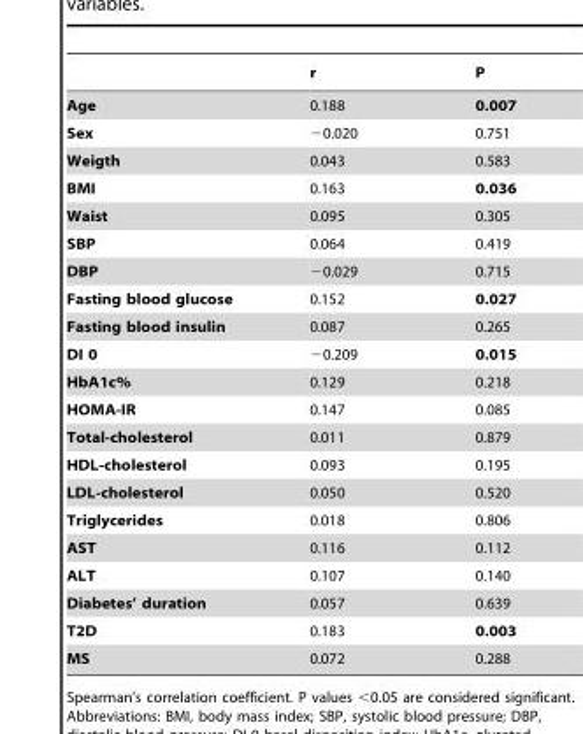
<table><thead><tr><td></td><td>r</td><td>P</td></tr></thead><tbody><tr><td>Age</td><td>0.188</td><td>0.007</td></tr><tr><td>Sex</td><td>−0.020</td><td>0.751</td></tr><tr><td>Weigth</td><td>0.043</td><td>0.583</td></tr><tr><td>BMI</td><td>0.163</td><td>0.036</td></tr><tr><td>Waist</td><td>0.095</td><td>0.305</td></tr><tr><td>SBP</td><td>0.064</td><td>0.419</td></tr><tr><td>DBP</td><td>−0.029</td><td>0.715</td></tr><tr><td>Fasting blood glucose</td><td>0.152</td><td>0.027</td></tr><tr><td>Fasting blood insulin</td><td>0.087</td><td>0.265</td></tr><tr><td>DI 0</td><td>−0.209</td><td>0.015</td></tr><tr><td>HbA1c%</td><td>0.129</td><td>0.218</td></tr><tr><td>HOMA-IR</td><td>0.147</td><td>0.085</td></tr><tr><td>Total-cholesterol</td><td>0.011</td><td>0.879</td></tr><tr><td>HDL-cholesterol</td><td>0.093</td><td>0.195</td></tr><tr><td>LDL-cholesterol</td><td>0.050</td><td>0.520</td></tr><tr><td>Triglycerides</td><td>0.018</td><td>0.806</td></tr><tr><td>AST</td><td>0.116</td><td>0.112</td></tr><tr><td>ALT</td><td>0.107</td><td>0.140</td></tr><tr><td>Diabetes’ duration</td><td>0.057</td><td>0.639</td></tr><tr><td>T2D</td><td>0.183</td><td>0.003</td></tr><tr><td>MS</td><td>0.072</td><td>0.288</td></tr></tbody></table>